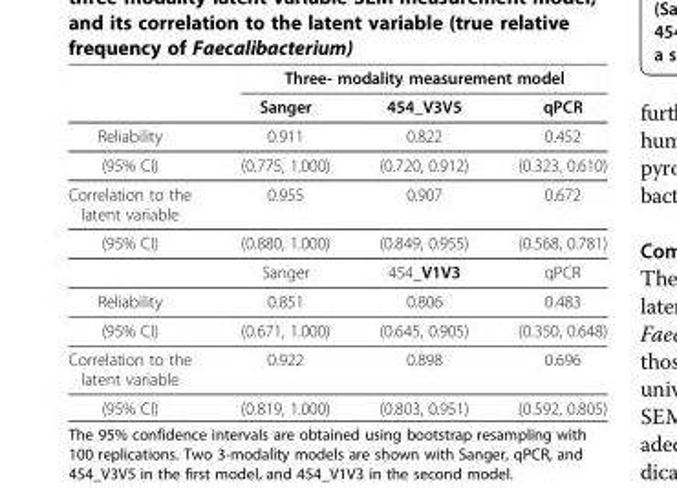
<table><thead><tr><td rowspan="2"></td><td colspan="3">Three- modality measurement model</td></tr><tr><td>Sanger</td><td>454_V3V5</td><td>qPCR</td></tr></thead><tbody><tr><td>Reliability</td><td>0.911</td><td>0.822</td><td>0.452</td></tr><tr><td>(95% CI)</td><td>(0.775, 1.000)</td><td>(0.720, 0.912)</td><td>(0.323, 0.610)</td></tr><tr><td>Correlation to the latent variable</td><td>0.955</td><td>0.907</td><td>0.672</td></tr><tr><td rowspan="2">(95% CI)</td><td>(0.880, 1.000)</td><td>(0.849, 0.955)</td><td>(0.568, 0.781)</td></tr><tr><td>Sanger</td><td>454_V1V3</td><td>qPCR</td></tr><tr><td>Reliability</td><td>0.851</td><td>0.806</td><td>0.483</td></tr><tr><td>(95% CI)</td><td>(0.671, 1.000)</td><td>(0.645, 0.905)</td><td>(0.350, 0.648)</td></tr><tr><td>Correlation to the latent variable</td><td>0.922</td><td>0.898</td><td>0.696</td></tr><tr><td>(95% CI)</td><td>(0.819, 1.000)</td><td>(0.803, 0.951)</td><td>(0.592, 0.805)</td></tr></tbody></table>